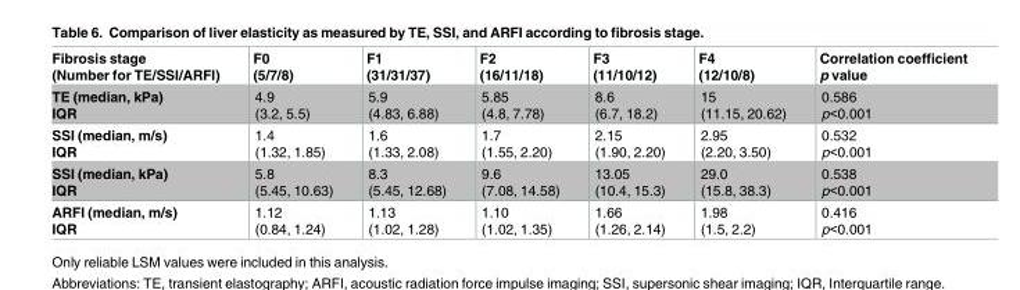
<table><thead><tr><td>Fibrosis stage (Number for TE/SSI/ARFI)</td><td>F0 (5/7/8)</td><td>F1 (31/31/37)</td><td>F2 (16/11/18)</td><td>F3 (11/10/12)</td><td>F4 (12/10/8)</td><td>Correlation coefficient p value</td></tr></thead><tbody><tr><td>TE (median, kPa) IQR</td><td>4.9 (3.2, 5.5)</td><td>5.9 (4.83, 6.88)</td><td>5.85 (4.8, 7.78)</td><td>8.6 (6.7, 18.2)</td><td>15 (11.15, 20.62)</td><td>0.586 p&lt;0.001</td></tr><tr><td>SSI (median, m/s) IQR</td><td>1.4 (1.32, 1.85)</td><td>1.6 (1.33, 2.08)</td><td>1.7 (1.55, 2.20)</td><td>2.15 (1.90, 2.20)</td><td>2.95 (2.20, 3.50)</td><td>0.532 p&lt;0.001</td></tr><tr><td>SSI (median, kPa) IQR</td><td>5.8 (5.45, 10.63)</td><td>8.3 (5.45, 12.68)</td><td>9.6 (7.08, 14.58)</td><td>13.05 (10.4, 15.3)</td><td>29.0 (15.8, 38.3)</td><td>0.538 p&lt;0.001</td></tr><tr><td>ARFI (median, m/s) IQR</td><td>1.12 (0.84, 1.24)</td><td>1.13 (1.02, 1.28)</td><td>1.10 (1.02, 1.35)</td><td>1.66 (1.26, 2.14)</td><td>1.98 (1.5, 2.2)</td><td>0.416 p&lt;0.001</td></tr></tbody></table>